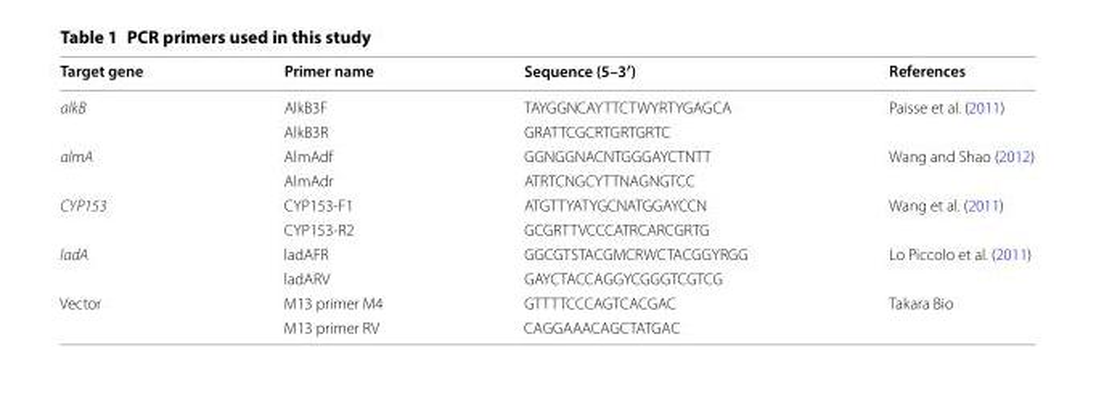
<table><thead><tr><td>Target gene</td><td>Primer name</td><td>Sequence (5–3′)</td><td>References</td></tr></thead><tbody><tr><td rowspan="2">alkB</td><td>AlkB3F</td><td>TAYGGNCAYTTCTWYRTYGAGCA</td><td rowspan="2">Paisse et al. (2011)</td></tr><tr><td>AlkB3R</td><td>GRATTCGCRTGRTGRTC</td></tr><tr><td rowspan="2">almA</td><td>AlmAdf</td><td>GGNGGNACNTGGGAYCTNTT</td><td rowspan="2">Wang and Shao (2012)</td></tr><tr><td>AlmAdr</td><td>ATRTCNGCYTTNAGNGTCC</td></tr><tr><td rowspan="2">CYP153</td><td>CYP153‑F1</td><td>ATGTTYATYGCNATGGAYCCN</td><td rowspan="2">Wang et al. (2011)</td></tr><tr><td>CYP153‑R2</td><td>GCGRTTVCCCATRCARCGRTG</td></tr><tr><td rowspan="2">ladA</td><td>ladAFR</td><td>GGCGTSTACGMCRWCTACGGYRGG</td><td rowspan="2">Lo Piccolo et al. (2011)</td></tr><tr><td>ladARV</td><td>GAYCTACCAGGYCGGGTCGTCG</td></tr><tr><td rowspan="2">Vector</td><td>M13 primer M4</td><td>GTTTTCCCAGTCACGAC</td><td rowspan="2">Takara Bio</td></tr><tr><td>M13 primer RV</td><td>CAGGAAACAGCTATGAC</td></tr></tbody></table>